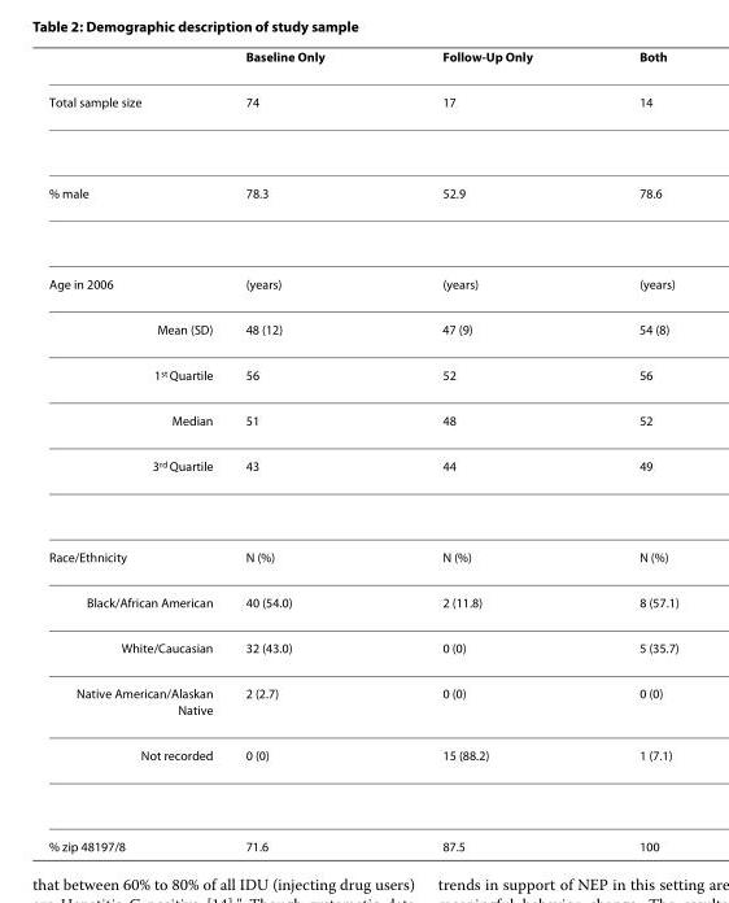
<table><thead><tr><td></td><td>Baseline Only</td><td>Follow-Up Only</td><td>Both</td></tr></thead><tbody><tr><td>Total sample size</td><td>74</td><td>17</td><td>14</td></tr><tr><td>% male</td><td>78.3</td><td>52.9</td><td>78.6</td></tr><tr><td>Age in 2006</td><td>(years)</td><td>(years)</td><td>(years)</td></tr><tr><td>Mean (SD)</td><td>48 (12)</td><td>47 (9)</td><td>54 (8)</td></tr><tr><td>1st Quartile</td><td>56</td><td>52</td><td>56</td></tr><tr><td>Median</td><td>51</td><td>48</td><td>52</td></tr><tr><td>3rd Quartile</td><td>43</td><td>44</td><td>49</td></tr><tr><td>Race/Ethnicity</td><td>N (%)</td><td>N (%)</td><td>N (%)</td></tr><tr><td>Black/African American</td><td>40 (54.0)</td><td>2 (11.8)</td><td>8 (57.1)</td></tr><tr><td>White/Caucasian</td><td>32 (43.0)</td><td>0 (0)</td><td>5 (35.7)</td></tr><tr><td>Native American/Alaskan Native</td><td>2 (2.7)</td><td>0 (0)</td><td>0 (0)</td></tr><tr><td>Not recorded</td><td>0 (0)</td><td>15 (88.2)</td><td>1 (7.1)</td></tr><tr><td>% zip 48197/8</td><td>71.6</td><td>87.5</td><td>100</td></tr></tbody></table>